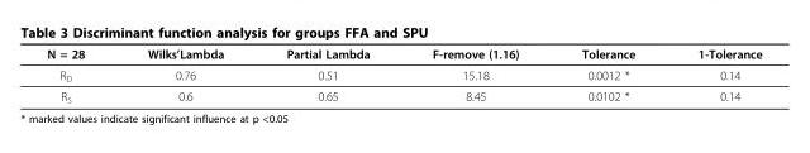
<table><thead><tr><td>N = 28</td><td>Wilks’Lambda</td><td>Partial Lambda</td><td>F-remove (1.16)</td><td>Tolerance</td><td>1-Tolerance</td></tr></thead><tbody><tr><td>R<sub>D</sub></td><td>0.76</td><td>0.51</td><td>15.18</td><td>0.0012 *</td><td>0.14</td></tr><tr><td>R<sub>S</sub></td><td>0.6</td><td>0.65</td><td>8.45</td><td>0.0102 *</td><td>0.14</td></tr></tbody></table>